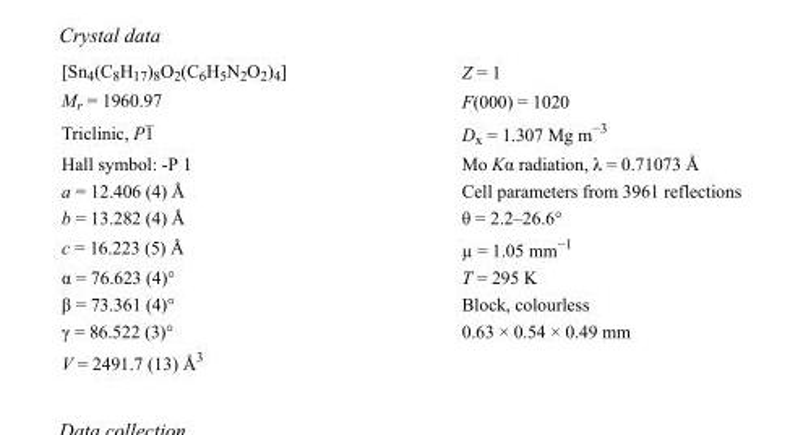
<table><tbody><tr><td>[Sn<sub>4</sub>(C<sub>8</sub>H<sub>17</sub>)<sub>8</sub>O<sub>2</sub>(C<sub>6</sub>H<sub>5</sub>N<sub>2</sub>O<sub>2</sub>)<sub>4</sub>]</td><td>Z = 1</td></tr><tr><td>M<sub>r</sub> = 1960.97</td><td>F(000) = 1020</td></tr><tr><td>Triclinic, P1</td><td>D<sub>x</sub> = 1.307 Mg m<sup>−3</sup></td></tr><tr><td>Hall symbol: -P 1</td><td>Mo Kα radiation, λ = 0.71073 Å</td></tr><tr><td>a = 12.406 (4) Å</td><td>Cell parameters from 3961 reflections</td></tr><tr><td>b = 13.282 (4) Å</td><td>θ = 2.2–26.6°</td></tr><tr><td>c = 16.223 (5) Å</td><td>µ = 1.05 mm<sup>−1</sup></td></tr><tr><td>α = 76.623 (4)°</td><td>T = 295 K</td></tr><tr><td>β = 73.361 (4)°</td><td>Block, colourless</td></tr><tr><td>γ = 86.522 (3)°</td><td>0.63 × 0.54 × 0.49 mm</td></tr><tr><td>V = 2491.7 (13) Å<sup>3</sup></td><td></td></tr></tbody></table>